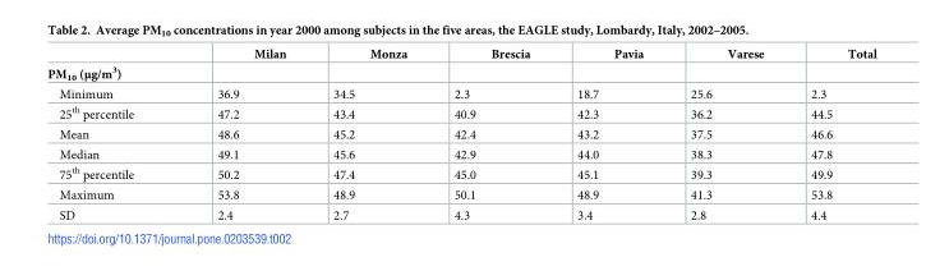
<table><thead><tr><td></td><td>Milan</td><td>Monza</td><td>Brescia</td><td>Pavia</td><td>Varese</td><td>Total</td></tr></thead><tbody><tr><td colspan="7">PM<sub>10</sub> (μg/m<sup>3</sup>)</td></tr><tr><td>Minimum</td><td>36.9</td><td>34.5</td><td>2.3</td><td>18.7</td><td>25.6</td><td>2.3</td></tr><tr><td>25<sup>th</sup> percentile</td><td>47.2</td><td>43.4</td><td>40.9</td><td>42.3</td><td>36.2</td><td>44.5</td></tr><tr><td>Mean</td><td>48.6</td><td>45.2</td><td>42.4</td><td>43.2</td><td>37.5</td><td>46.6</td></tr><tr><td>Median</td><td>49.1</td><td>45.6</td><td>42.9</td><td>44.0</td><td>38.3</td><td>47.8</td></tr><tr><td>75<sup>th</sup> percentile</td><td>50.2</td><td>47.4</td><td>45.0</td><td>45.1</td><td>39.3</td><td>49.9</td></tr><tr><td>Maximum</td><td>53.8</td><td>48.9</td><td>50.1</td><td>48.9</td><td>41.3</td><td>53.8</td></tr><tr><td>SD</td><td>2.4</td><td>2.7</td><td>4.3</td><td>3.4</td><td>2.8</td><td>4.4</td></tr></tbody></table>